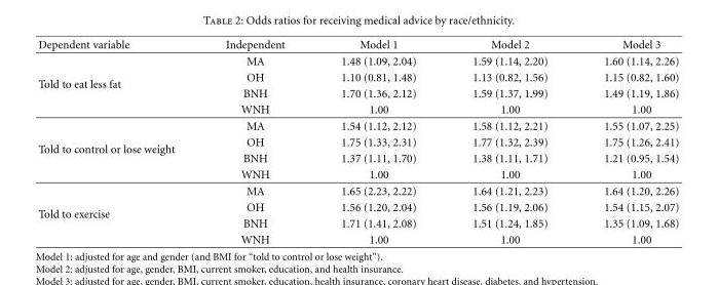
<table><thead><tr><td>Dependent variable</td><td>Independent</td><td>Model 1</td><td>Model 2</td><td>Model 3</td></tr></thead><tbody><tr><td rowspan="4">Told to eat less fat</td><td>MA</td><td>1.48 (1.09, 2.04)</td><td>1.59 (1.14, 2.20)</td><td>1.60 (1.14, 2.26)</td></tr><tr><td>OH</td><td>1.10 (0.81, 1.48)</td><td>1.13 (0.82, 1.56)</td><td>1.15 (0.82, 1.60)</td></tr><tr><td>BNH</td><td>1.70 (1.36, 2.12)</td><td>1.59 (1.37, 1.99)</td><td>1.49 (1.19, 1.86)</td></tr><tr><td>WNH</td><td>1.00</td><td>1.00</td><td>1.00</td></tr><tr><td rowspan="4">Told to control or lose weight</td><td>MA</td><td>1.54 (1.12, 2.12)</td><td>1.58 (1.12, 2.21)</td><td>1.55 (1.07, 2.25)</td></tr><tr><td>OH</td><td>1.75 (1.33, 2.31)</td><td>1.77 (1.32, 2.39)</td><td>1.75 (1.26, 2.41)</td></tr><tr><td>BNH</td><td>1.37 (1.11, 1.70)</td><td>1.38 (1.11, 1.71)</td><td>1.21 (0.95, 1.54)</td></tr><tr><td>WNH</td><td>1.00</td><td>1.00</td><td>1.00</td></tr><tr><td rowspan="4">Told to exercise</td><td>MA</td><td>1.65 (2.23, 2.22)</td><td>1.64 (1.21, 2.23)</td><td>1.64 (1.20, 2.26)</td></tr><tr><td>OH</td><td>1.56 (1.20, 2.04)</td><td>1.56 (1.19, 2.06)</td><td>1.54 (1.15, 2.07)</td></tr><tr><td>BNH</td><td>1.71 (1.41, 2.08)</td><td>1.51 (1.24, 1.85)</td><td>1.35 (1.09, 1.68)</td></tr><tr><td>WNH</td><td>1.00</td><td>1.00</td><td>1.00</td></tr></tbody></table>